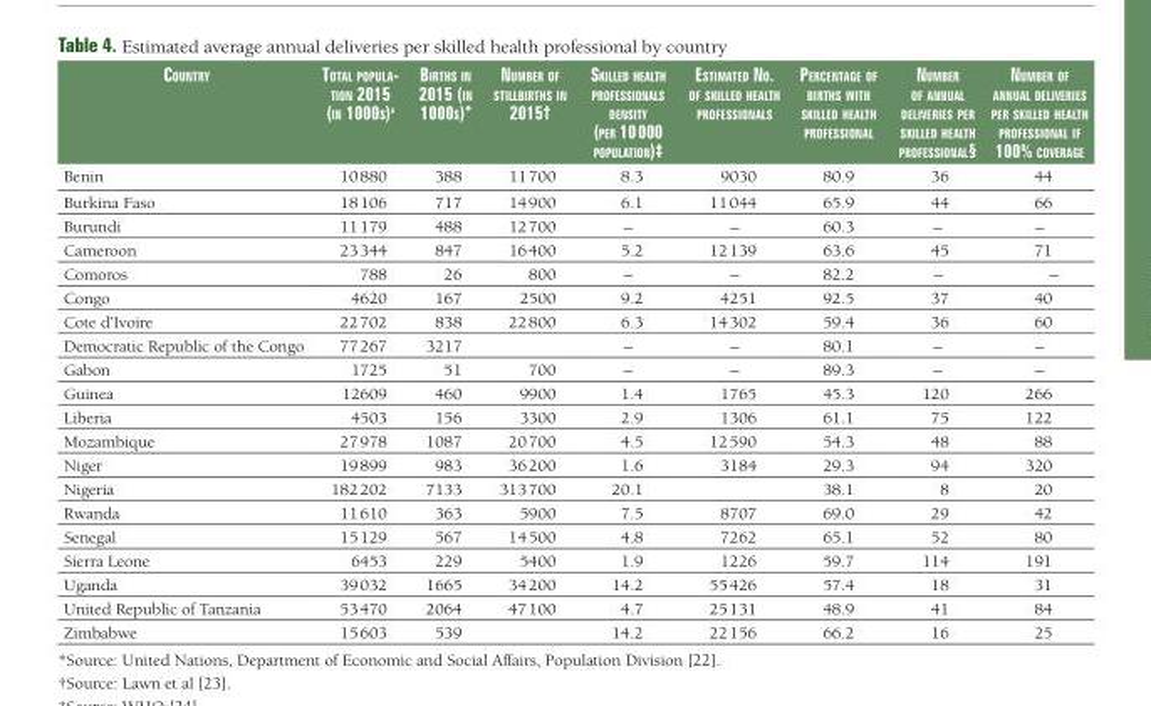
<table><thead><tr><td>Country</td><td>total PoPula- tion 2015 (in 1000S) a</td><td>birthS in 2015 (in 1000S)*</td><td>number of StillbirthS in 2015†</td><td>Skilled health ProfeSSionalS denSity (Per 10 000 PoPulation)‡</td><td>eStimated no. of Skilled health ProfeSSionalS</td><td>PerCentage of birthS with Skilled health ProfeSSional</td><td>number of annual deliverieS Per Skilled health ProfeSSional§</td><td>number of annual deliverieS Per Skilled health ProfeSSional if 100% Coverage</td></tr></thead><tbody><tr><td>Benin</td><td>10 880</td><td>388</td><td>11 700</td><td>8.3</td><td>9030</td><td>80.9</td><td>36</td><td>44</td></tr><tr><td>Burkina Faso</td><td>18 106</td><td>717</td><td>14 900</td><td>6.1</td><td>11 044</td><td>65.9</td><td>44</td><td>66</td></tr><tr><td>Burundi</td><td>11 179</td><td>488</td><td>12 700</td><td>–</td><td>–</td><td>60.3</td><td>–</td><td>–</td></tr><tr><td>Cameroon</td><td>23 344</td><td>847</td><td>16 400</td><td>5.2</td><td>12 139</td><td>63.6</td><td>45</td><td>71</td></tr><tr><td>Comoros</td><td>788</td><td>26</td><td>800</td><td>–</td><td>–</td><td>82.2</td><td>–</td><td>–</td></tr><tr><td>Congo</td><td>4620</td><td>167</td><td>2500</td><td>9.2</td><td>4251</td><td>92.5</td><td>37</td><td>40</td></tr><tr><td>Cote d’Ivoire</td><td>22 702</td><td>838</td><td>22 800</td><td>6.3</td><td>14 302</td><td>59.4</td><td>36</td><td>60</td></tr><tr><td>Democratic Republic of the Congo</td><td>77 267</td><td>3217</td><td></td><td>–</td><td>–</td><td>80.1</td><td>–</td><td>–</td></tr><tr><td>Gabon</td><td>1725</td><td>51</td><td>700</td><td>–</td><td>–</td><td>89.3</td><td>–</td><td>–</td></tr><tr><td>Guinea</td><td>12609</td><td>460</td><td>9900</td><td>1.4</td><td>1765</td><td>45.3</td><td>120</td><td>266</td></tr><tr><td>Liberia</td><td>4503</td><td>156</td><td>3300</td><td>2.9</td><td>1306</td><td>61.1</td><td>75</td><td>122</td></tr><tr><td>Mozambique</td><td>27 978</td><td>1087</td><td>20 700</td><td>4.5</td><td>12 590</td><td>54.3</td><td>48</td><td>88</td></tr><tr><td>Niger</td><td>19 899</td><td>983</td><td>36 200</td><td>1.6</td><td>3184</td><td>29.3</td><td>94</td><td>320</td></tr><tr><td>Nigeria</td><td>182 202</td><td>7133</td><td>313 700</td><td>20.1</td><td></td><td>38.1</td><td>8</td><td>20</td></tr><tr><td>Rwanda</td><td>11 610</td><td>363</td><td>5900</td><td>7.5</td><td>8707</td><td>69.0</td><td>29</td><td>42</td></tr><tr><td>Senegal</td><td>15 129</td><td>567</td><td>14 500</td><td>4.8</td><td>7262</td><td>65.1</td><td>52</td><td>80</td></tr><tr><td>Sierra Leone</td><td>6453</td><td>229</td><td>5400</td><td>1.9</td><td>1226</td><td>59.7</td><td>114</td><td>191</td></tr><tr><td>Uganda</td><td>39 032</td><td>1665</td><td>34 200</td><td>14.2</td><td>55 426</td><td>57.4</td><td>18</td><td>31</td></tr><tr><td>United Republic of Tanzania</td><td>53 470</td><td>2064</td><td>47 100</td><td>4.7</td><td>25 131</td><td>48.9</td><td>41</td><td>84</td></tr><tr><td>Zimbabwe</td><td>15 603</td><td>539</td><td></td><td>14.2</td><td>22 156</td><td>66.2</td><td>16</td><td>25</td></tr></tbody></table>